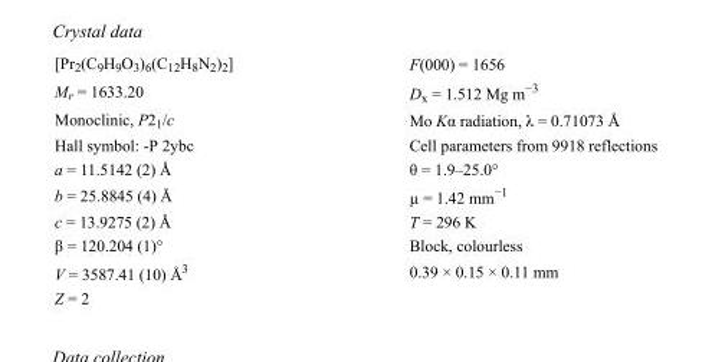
<table><tbody><tr><td>[Pr<sub>2</sub>(C<sub>9</sub>H<sub>9</sub>O<sub>3</sub>)<sub>6</sub>(C<sub>12</sub>H<sub>8</sub>N<sub>2</sub>)<sub>2</sub>]</td><td>F(000) = 1656</td></tr><tr><td>M<sub>r</sub> = 1633.20</td><td>D<sub>x</sub> = 1.512 Mg m<sup>−3</sup></td></tr><tr><td>Monoclinic, P2<sub>1</sub>/c</td><td>Mo Kα radiation, λ = 0.71073 Å</td></tr><tr><td>Hall symbol: -P 2ybc</td><td>Cell parameters from 9918 reflections</td></tr><tr><td>a = 11.5142 (2) Å</td><td>θ = 1.9–25.0°</td></tr><tr><td>b = 25.8845 (4) Å</td><td>µ = 1.42 mm<sup>−1</sup></td></tr><tr><td>c = 13.9275 (2) Å</td><td>T = 296 K</td></tr><tr><td>β = 120.204 (1)°</td><td>Block, colourless</td></tr><tr><td>V = 3587.41 (10) Å<sup>3</sup></td><td>0.39 × 0.15 × 0.11 mm</td></tr><tr><td>Z = 2</td><td></td></tr></tbody></table>